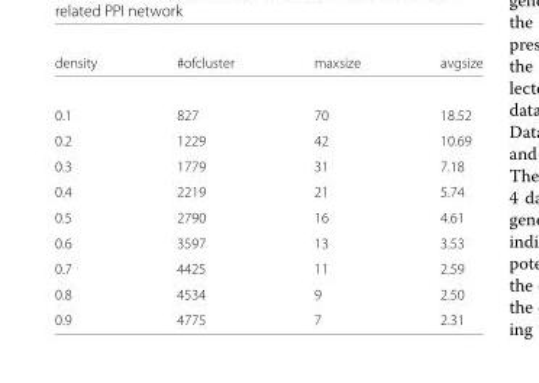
<table><thead><tr><td>density</td><td>#ofcluster</td><td>maxsize</td><td>avgsize</td></tr></thead><tbody><tr><td>0.1</td><td>827</td><td>70</td><td>18.52</td></tr><tr><td>0.2</td><td>1229</td><td>42</td><td>10.69</td></tr><tr><td>0.3</td><td>1779</td><td>31</td><td>7.18</td></tr><tr><td>0.4</td><td>2219</td><td>21</td><td>5.74</td></tr><tr><td>0.5</td><td>2790</td><td>16</td><td>4.61</td></tr><tr><td>0.6</td><td>3597</td><td>13</td><td>3.53</td></tr><tr><td>0.7</td><td>4425</td><td>11</td><td>2.59</td></tr><tr><td>0.8</td><td>4534</td><td>9</td><td>2.50</td></tr><tr><td>0.9</td><td>4775</td><td>7</td><td>2.31</td></tr></tbody></table>